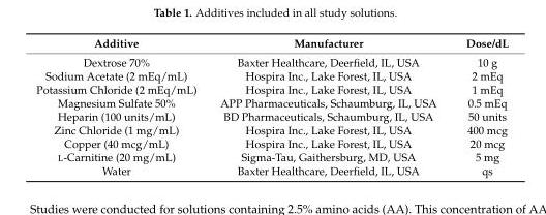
<table><thead><tr><td>Additive</td><td>Manufacturer</td><td>Dose/dL</td></tr></thead><tbody><tr><td>Dextrose 70%</td><td>Baxter Healthcare, Deerfield, IL, USA</td><td>10 g</td></tr><tr><td>Sodium Acetate (2 mEq/mL)</td><td>Hospira Inc., Lake Forest, IL, USA</td><td>2 mEq</td></tr><tr><td>Potassium Chloride (2 mEq/mL)</td><td>Hospira Inc., Lake Forest, IL, USA</td><td>1 mEq</td></tr><tr><td>Magnesium Sulfate 50%</td><td>APP Pharmaceuticals, Schaumburg, IL, USA</td><td>0.5 mEq</td></tr><tr><td>Heparin (100 units/mL)</td><td>BD Pharmaceuticals, Schaumburg, IL, USA</td><td>50 units</td></tr><tr><td>Zinc Chloride (1 mg/mL)</td><td>Hospira Inc., Lake Forest, IL, USA</td><td>400 mcg</td></tr><tr><td>Copper (40 mcg/mL)</td><td>Hospira Inc., Lake Forest, IL, USA</td><td>20 mcg</td></tr><tr><td>L-Carnitine (20 mg/mL)</td><td>Sigma-Tau, Gaithersburg, MD, USA</td><td>5 mg</td></tr><tr><td>Water</td><td>Baxter Healthcare, Deerfield, IL, USA</td><td>qs</td></tr></tbody></table>